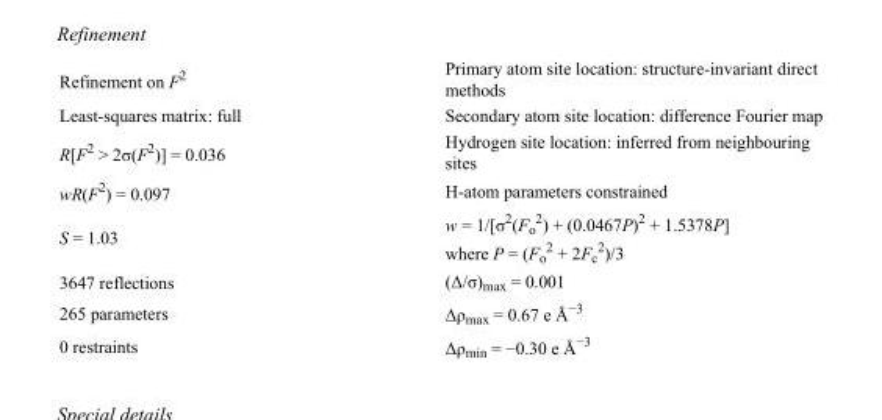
<table><tbody><tr><td>Refinement on F<sup>2</sup></td><td>Primary atom site location: structure-invariant direct methods</td></tr><tr><td>Least-squares matrix: full</td><td>Secondary atom site location: difference Fourier map</td></tr><tr><td>R[F<sup>2</sup> &gt; 2σ(F<sup>2</sup>)] = 0.036</td><td>Hydrogen site location: inferred from neighbouring sites</td></tr><tr><td>wR(F<sup>2</sup>) = 0.097</td><td>H-atom parameters constrained</td></tr><tr><td>S = 1.03</td><td>w = 1/[σ<sup>2</sup>(F<sub>o</sub> <sup>2</sup>) + (0.0467P)<sup>2</sup> + 1.5378P] where P = (F<sub>o</sub> <sup>2</sup> + 2F<sub>c</sub> <sup>2</sup>)/3</td></tr><tr><td>3647 reflections</td><td>(Δ/σ)<sub>max</sub> = 0.001</td></tr><tr><td>265 parameters</td><td>Δρ<sub>max</sub> = 0.67 e Å<sup>−3</sup></td></tr><tr><td>0 restraints</td><td>Δρ<sub>min</sub> = −0.30 e Å<sup>−3</sup></td></tr></tbody></table>